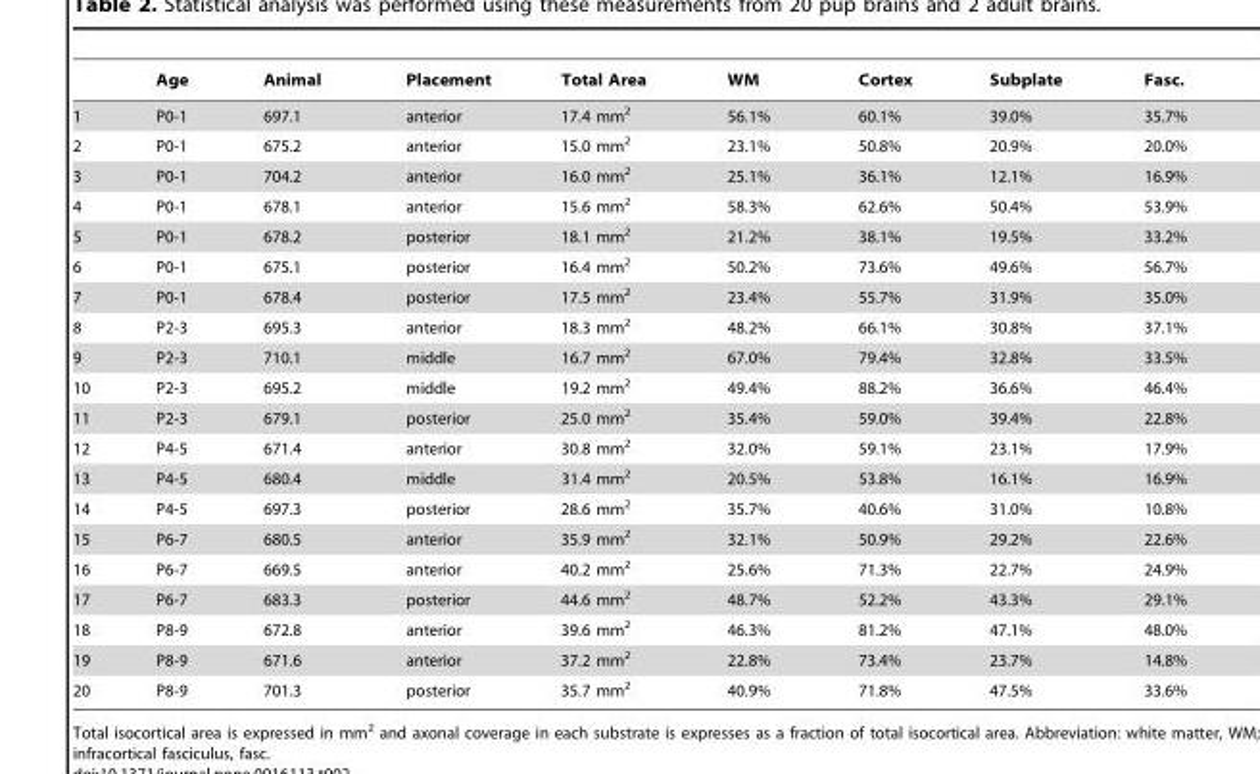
<table><thead><tr><td></td><td>Age</td><td>Animal</td><td>Placement</td><td>Total Area</td><td>WM</td><td>Cortex</td><td>Subplate</td><td>Fasc.</td></tr></thead><tbody><tr><td>1</td><td>P0-1</td><td>697.1</td><td>anterior</td><td>17.4 mm<sup>2</sup></td><td>56.1%</td><td>60.1%</td><td>39.0%</td><td>35.7%</td></tr><tr><td>2</td><td>P0-1</td><td>675.2</td><td>anterior</td><td>15.0 mm<sup>2</sup></td><td>23.1%</td><td>50.8%</td><td>20.9%</td><td>20.0%</td></tr><tr><td>3</td><td>P0-1</td><td>704.2</td><td>anterior</td><td>16.0 mm<sup>2</sup></td><td>25.1%</td><td>36.1%</td><td>12.1%</td><td>16.9%</td></tr><tr><td>4</td><td>P0-1</td><td>678.1</td><td>anterior</td><td>15.6 mm<sup>2</sup></td><td>58.3%</td><td>62.6%</td><td>50.4%</td><td>53.9%</td></tr><tr><td>5</td><td>P0-1</td><td>678.2</td><td>posterior</td><td>18.1 mm<sup>2</sup></td><td>21.2%</td><td>38.1%</td><td>19.5%</td><td>33.2%</td></tr><tr><td>6</td><td>P0-1</td><td>675.1</td><td>posterior</td><td>16.4 mm<sup>2</sup></td><td>50.2%</td><td>73.6%</td><td>49.6%</td><td>56.7%</td></tr><tr><td>7</td><td>P0-1</td><td>678.4</td><td>posterior</td><td>17.5 mm<sup>2</sup></td><td>23.4%</td><td>55.7%</td><td>31.9%</td><td>35.0%</td></tr><tr><td>8</td><td>P2-3</td><td>695.3</td><td>anterior</td><td>18.3 mm<sup>2</sup></td><td>48.2%</td><td>66.1%</td><td>30.8%</td><td>37.1%</td></tr><tr><td>9</td><td>P2-3</td><td>710.1</td><td>middle</td><td>16.7 mm<sup>2</sup></td><td>67.0%</td><td>79.4%</td><td>32.8%</td><td>33.5%</td></tr><tr><td>10</td><td>P2-3</td><td>695.2</td><td>middle</td><td>19.2 mm<sup>2</sup></td><td>49.4%</td><td>88.2%</td><td>36.6%</td><td>46.4%</td></tr><tr><td>11</td><td>P2-3</td><td>679.1</td><td>posterior</td><td>25.0 mm<sup>2</sup></td><td>35.4%</td><td>59.0%</td><td>39.4%</td><td>22.8%</td></tr><tr><td>12</td><td>P4-5</td><td>671.4</td><td>anterior</td><td>30.8 mm<sup>2</sup></td><td>32.0%</td><td>59.1%</td><td>23.1%</td><td>17.9%</td></tr><tr><td>13</td><td>P4-5</td><td>680.4</td><td>middle</td><td>31.4 mm<sup>2</sup></td><td>20.5%</td><td>53.8%</td><td>16.1%</td><td>16.9%</td></tr><tr><td>14</td><td>P4-5</td><td>697.3</td><td>posterior</td><td>28.6 mm<sup>2</sup></td><td>35.7%</td><td>40.6%</td><td>31.0%</td><td>10.8%</td></tr><tr><td>15</td><td>P6-7</td><td>680.5</td><td>anterior</td><td>35.9 mm<sup>2</sup></td><td>32.1%</td><td>50.9%</td><td>29.2%</td><td>22.6%</td></tr><tr><td>16</td><td>P6-7</td><td>669.5</td><td>anterior</td><td>40.2 mm<sup>2</sup></td><td>25.6%</td><td>71.3%</td><td>22.7%</td><td>24.9%</td></tr><tr><td>17</td><td>P6-7</td><td>683.3</td><td>posterior</td><td>44.6 mm<sup>2</sup></td><td>48.7%</td><td>52.2%</td><td>43.3%</td><td>29.1%</td></tr><tr><td>18</td><td>P8-9</td><td>672.8</td><td>anterior</td><td>39.6 mm<sup>2</sup></td><td>46.3%</td><td>81.2%</td><td>47.1%</td><td>48.0%</td></tr><tr><td>19</td><td>P8-9</td><td>671.6</td><td>anterior</td><td>37.2 mm<sup>2</sup></td><td>22.8%</td><td>73.4%</td><td>23.7%</td><td>14.8%</td></tr><tr><td>20</td><td>P8-9</td><td>701.3</td><td>posterior</td><td>35.7 mm<sup>2</sup></td><td>40.9%</td><td>71.8%</td><td>47.5%</td><td>33.6%</td></tr></tbody></table>